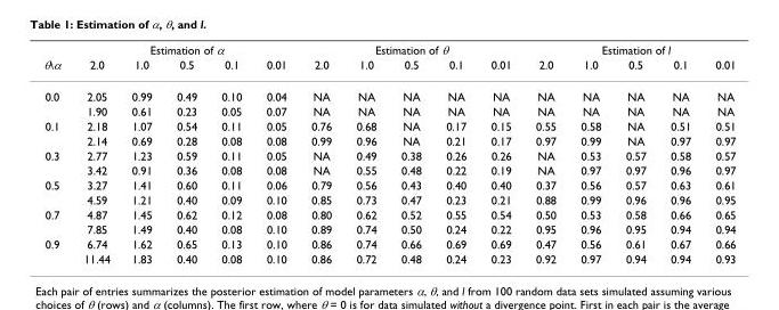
<table><thead><tr><td rowspan="2">θ\\u03b1</td><td colspan="5">Estimation of α</td><td colspan="5">Estimation of θ</td><td colspan="5">Estimation of l</td></tr><tr><td>2.0</td><td>1.0</td><td>0.5</td><td>0.1</td><td>0.01</td><td>2.0</td><td>1.0</td><td>0.5</td><td>0.1</td><td>0.01</td><td>2.0</td><td>1.0</td><td>0.5</td><td>0.1</td><td>0.01</td></tr></thead><tbody><tr><td rowspan="2">0.0</td><td>2.05</td><td>0.99</td><td>0.49</td><td>0.10</td><td>0.04</td><td>NA</td><td>NA</td><td>NA</td><td>NA</td><td>NA</td><td>NA</td><td>NA</td><td>NA</td><td>NA</td><td>NA</td></tr><tr><td>1.90</td><td>0.61</td><td>0.23</td><td>0.05</td><td>0.07</td><td>NA</td><td>NA</td><td>NA</td><td>NA</td><td>NA</td><td>NA</td><td>NA</td><td>NA</td><td>NA</td><td>NA</td></tr><tr><td rowspan="2">0.1</td><td>2.18</td><td>1.07</td><td>0.54</td><td>0.11</td><td>0.05</td><td>0.76</td><td>0.68</td><td>NA</td><td>0.17</td><td>0.15</td><td>0.55</td><td>0.58</td><td>NA</td><td>0.51</td><td>0.51</td></tr><tr><td>2.14</td><td>0.69</td><td>0.28</td><td>0.08</td><td>0.08</td><td>0.99</td><td>0.96</td><td>NA</td><td>0.21</td><td>0.17</td><td>0.97</td><td>0.99</td><td>NA</td><td>0.97</td><td>0.97</td></tr><tr><td rowspan="2">0.3</td><td>2.77</td><td>1.23</td><td>0.59</td><td>0.11</td><td>0.05</td><td>NA</td><td>0.49</td><td>0.38</td><td>0.26</td><td>0.26</td><td>NA</td><td>0.53</td><td>0.57</td><td>0.58</td><td>0.57</td></tr><tr><td>3.42</td><td>0.91</td><td>0.36</td><td>0.08</td><td>0.08</td><td>NA</td><td>0.55</td><td>0.48</td><td>0.22</td><td>0.19</td><td>NA</td><td>0.97</td><td>0.97</td><td>0.96</td><td>0.97</td></tr><tr><td rowspan="2">0.5</td><td>3.27</td><td>1.41</td><td>0.60</td><td>0.11</td><td>0.06</td><td>0.79</td><td>0.56</td><td>0.43</td><td>0.40</td><td>0.40</td><td>0.37</td><td>0.56</td><td>0.57</td><td>0.63</td><td>0.61</td></tr><tr><td>4.59</td><td>1.21</td><td>0.40</td><td>0.09</td><td>0.10</td><td>0.85</td><td>0.73</td><td>0.47</td><td>0.23</td><td>0.21</td><td>0.88</td><td>0.99</td><td>0.96</td><td>0.96</td><td>0.95</td></tr><tr><td rowspan="2">0.7</td><td>4.87</td><td>1.45</td><td>0.62</td><td>0.12</td><td>0.08</td><td>0.80</td><td>0.62</td><td>0.52</td><td>0.55</td><td>0.54</td><td>0.50</td><td>0.53</td><td>0.58</td><td>0.66</td><td>0.65</td></tr><tr><td>7.85</td><td>1.49</td><td>0.40</td><td>0.08</td><td>0.10</td><td>0.89</td><td>0.74</td><td>0.50</td><td>0.24</td><td>0.22</td><td>0.95</td><td>0.96</td><td>0.95</td><td>0.94</td><td>0.94</td></tr><tr><td rowspan="2">0.9</td><td>6.74</td><td>1.62</td><td>0.65</td><td>0.13</td><td>0.10</td><td>0.86</td><td>0.74</td><td>0.66</td><td>0.69</td><td>0.69</td><td>0.47</td><td>0.56</td><td>0.61</td><td>0.67</td><td>0.66</td></tr><tr><td>11.44</td><td>1.83</td><td>0.40</td><td>0.08</td><td>0.10</td><td>0.86</td><td>0.72</td><td>0.48</td><td>0.24</td><td>0.23</td><td>0.92</td><td>0.97</td><td>0.94</td><td>0.94</td><td>0.93</td></tr></tbody></table>